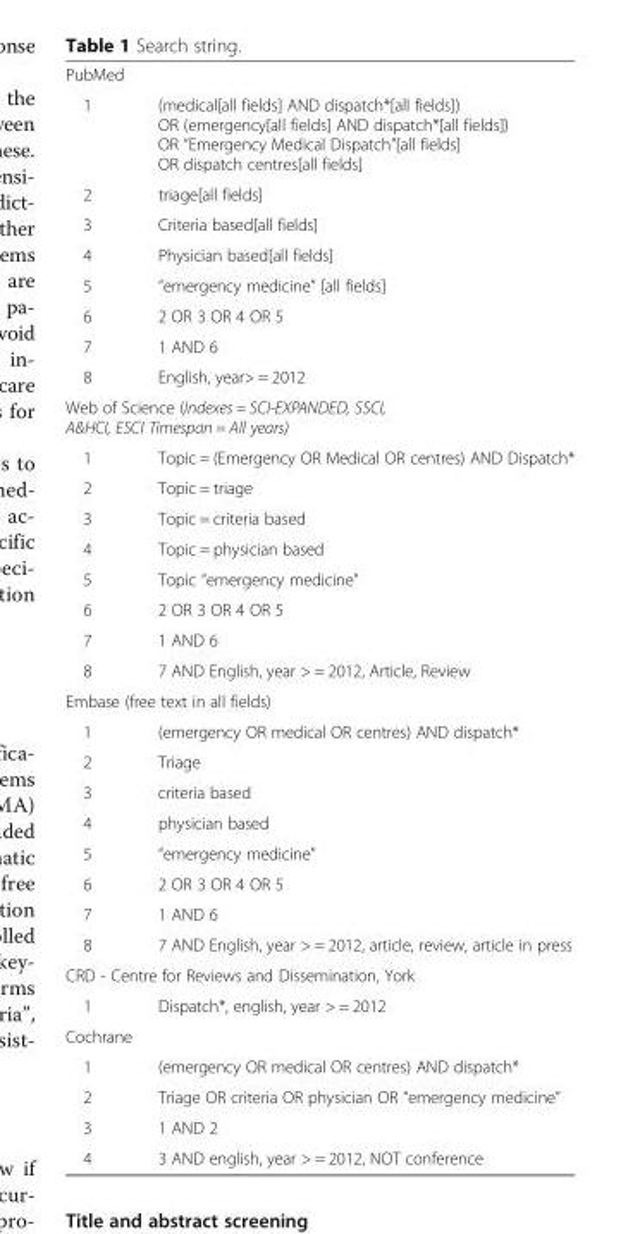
<table><tbody><tr><td colspan="2">PubMed</td></tr><tr><td>1</td><td>(medical[all fields] AND dispatch*[all fields]) OR (emergency[all fields] AND dispatch*[all fields]) OR “Emergency Medical Dispatch”[all fields] OR dispatch centres[all fields]</td></tr><tr><td>2</td><td>triage[all fields]</td></tr><tr><td>3</td><td>Criteria based[all fields]</td></tr><tr><td>4</td><td>Physician based[all fields]</td></tr><tr><td>5</td><td>“emergency medicine” [all fields]</td></tr><tr><td>6</td><td>2 OR 3 OR 4 OR 5</td></tr><tr><td>7</td><td>1 AND 6</td></tr><tr><td>8</td><td>English, year&gt; = 2012</td></tr><tr><td colspan="2">Web of Science (Indexes = SCI-EXPANDED, SSCI, A&amp;HCI, ESCI Timespan = All years)</td></tr><tr><td>1</td><td>Topic = (Emergency OR Medical OR centres) AND Dispatch*</td></tr><tr><td>2</td><td>Topic = triage</td></tr><tr><td>3</td><td>Topic = criteria based</td></tr><tr><td>4</td><td>Topic = physician based</td></tr><tr><td>5</td><td>Topic “emergency medicine”</td></tr><tr><td>6</td><td>2 OR 3 OR 4 OR 5</td></tr><tr><td>7</td><td>1 AND 6</td></tr><tr><td>8</td><td>7 AND English, year &gt; = 2012, Article, Review</td></tr><tr><td colspan="2">Embase (free text in all fields)</td></tr><tr><td>1</td><td>(emergency OR medical OR centres) AND dispatch*</td></tr><tr><td>2</td><td>Triage</td></tr><tr><td>3</td><td>criteria based</td></tr><tr><td>4</td><td>physician based</td></tr><tr><td>5</td><td>“emergency medicine”</td></tr><tr><td>6</td><td>2 OR 3 OR 4 OR 5</td></tr><tr><td>7</td><td>1 AND 6</td></tr><tr><td>8</td><td>7 AND English, year &gt; = 2012, article, review, article in press</td></tr><tr><td colspan="2">CRD - Centre for Reviews and Dissemination, York</td></tr><tr><td>1</td><td>Dispatch*, english, year &gt; = 2012</td></tr><tr><td colspan="2">Cochrane</td></tr><tr><td>1</td><td>(emergency OR medical OR centres) AND dispatch*</td></tr><tr><td>2</td><td>Triage OR criteria OR physician OR “emergency medicine”</td></tr><tr><td>3</td><td>1 AND 2</td></tr><tr><td>4</td><td>3 AND english, year &gt; = 2012, NOT conference</td></tr></tbody></table>